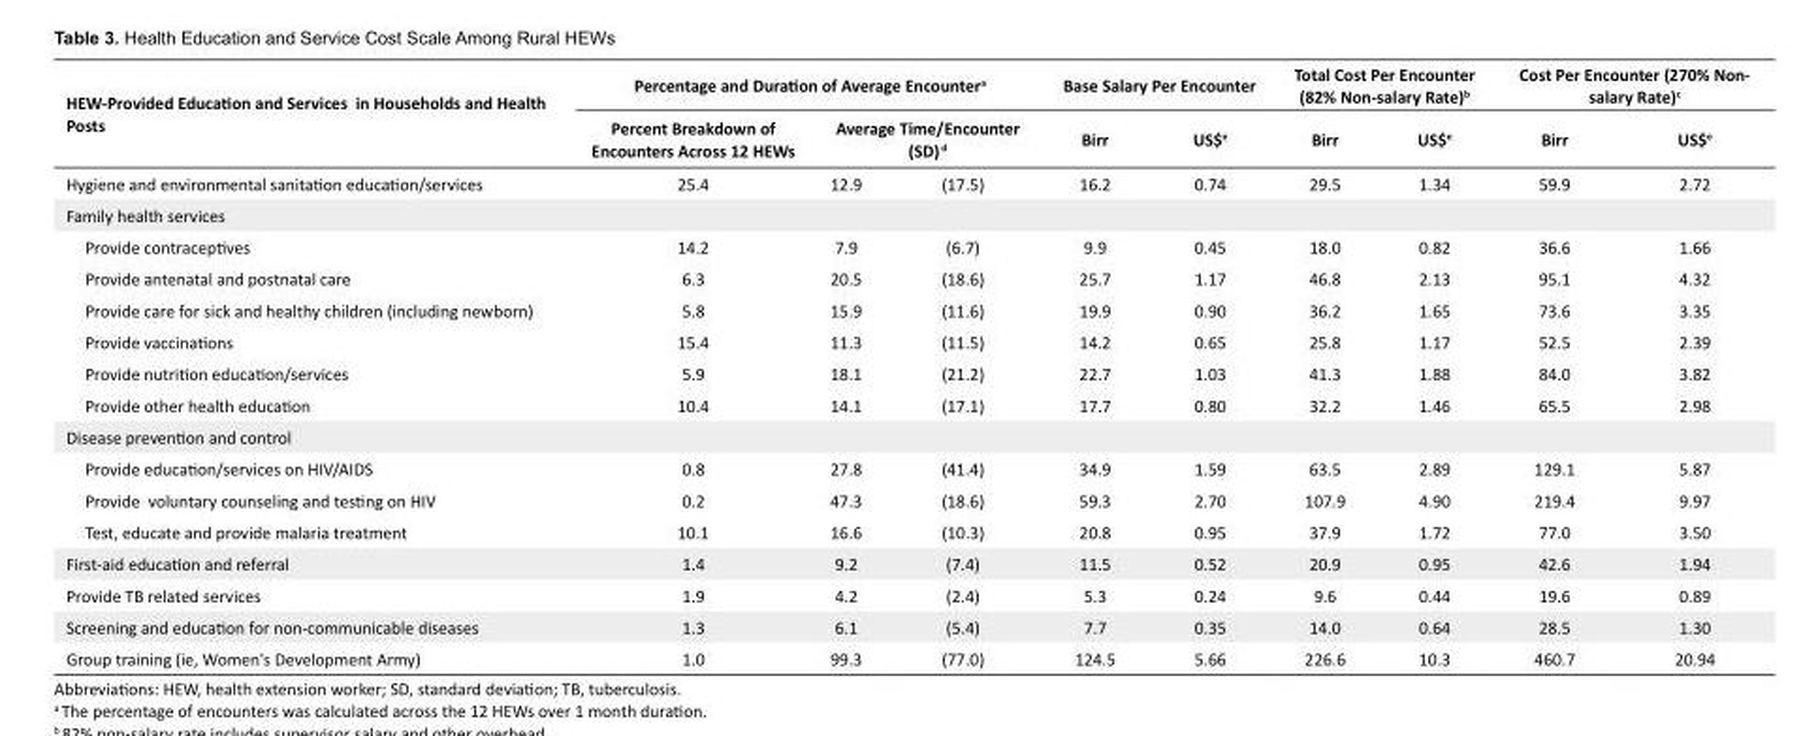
<table><tbody><tr><td rowspan="2">HEW-Provided Education and Services in Households and Health Posts</td><td colspan="3">Percentage and Duration of Average Encounter<sup>a</sup></td><td colspan="2">Base Salary Per Encounter</td><td colspan="2">Total Cost Per Encounter (82% Non-salary Rate)<sup>b</sup></td><td colspan="2">Cost Per Encounter (270% Non- salary Rate)<sup>c</sup></td></tr><tr><td>Percent Breakdown of Encounters Across 12 HEWs</td><td colspan="2">Average Time/Encounter (SD) <sup>d</sup></td><td>Birr</td><td>US$<sup>e</sup></td><td>Birr</td><td>US$<sup>e</sup></td><td>Birr</td><td>US$<sup>e</sup></td></tr><tr><td>Hygiene and environmental sanitation education/services</td><td>25.4</td><td>12.9</td><td>(17.5)</td><td>16.2</td><td>0.74</td><td>29.5</td><td>1.34</td><td>59.9</td><td>2.72</td></tr><tr><td colspan="10">Family health services</td></tr><tr><td>Provide contraceptives</td><td>14.2</td><td>7.9</td><td>(6.7)</td><td>9.9</td><td>0.45</td><td>18.0</td><td>0.82</td><td>36.6</td><td>1.66</td></tr><tr><td>Provide antenatal and postnatal care</td><td>6.3</td><td>20.5</td><td>(18.6)</td><td>25.7</td><td>1.17</td><td>46.8</td><td>2.13</td><td>95.1</td><td>4.32</td></tr><tr><td>Provide care for sick and healthy children (including newborn)</td><td>5.8</td><td>15.9</td><td>(11.6)</td><td>19.9</td><td>0.90</td><td>36.2</td><td>1.65</td><td>73.6</td><td>3.35</td></tr><tr><td>Provide vaccinations</td><td>15.4</td><td>11.3</td><td>(11.5)</td><td>14.2</td><td>0.65</td><td>25.8</td><td>1.17</td><td>52.5</td><td>2.39</td></tr><tr><td>Provide nutrition education/services</td><td>5.9</td><td>18.1</td><td>(21.2)</td><td>22.7</td><td>1.03</td><td>41.3</td><td>1.88</td><td>84.0</td><td>3.82</td></tr><tr><td>Provide other health education</td><td>10.4</td><td>14.1</td><td>(17.1)</td><td>17.7</td><td>0.80</td><td>32.2</td><td>1.46</td><td>65.5</td><td>2.98</td></tr><tr><td colspan="10">Disease prevention and control</td></tr><tr><td>Provide education/services on HIV/AIDS</td><td>0.8</td><td>27.8</td><td>(41.4)</td><td>34.9</td><td>1.59</td><td>63.5</td><td>2.89</td><td>129.1</td><td>5.87</td></tr><tr><td>Provide voluntary counseling and testing on HIV</td><td>0.2</td><td>47.3</td><td>(18.6)</td><td>59.3</td><td>2.70</td><td>107.9</td><td>4.90</td><td>219.4</td><td>9.97</td></tr><tr><td>Test, educate and provide malaria treatment</td><td>10.1</td><td>16.6</td><td>(10.3)</td><td>20.8</td><td>0.95</td><td>37.9</td><td>1.72</td><td>77.0</td><td>3.50</td></tr><tr><td>First-aid education and referral</td><td>1.4</td><td>9.2</td><td>(7.4)</td><td>11.5</td><td>0.52</td><td>20.9</td><td>0.95</td><td>42.6</td><td>1.94</td></tr><tr><td>Provide TB related services</td><td>1.9</td><td>4.2</td><td>(2.4)</td><td>5.3</td><td>0.24</td><td>9.6</td><td>0.44</td><td>19.6</td><td>0.89</td></tr><tr><td>Screening and education for non-communicable diseases</td><td>1.3</td><td>6.1</td><td>(5.4)</td><td>7.7</td><td>0.35</td><td>14.0</td><td>0.64</td><td>28.5</td><td>1.30</td></tr><tr><td>Group training (ie, Women&#x27;s Development Army)</td><td>1.0</td><td>99.3</td><td>(77.0)</td><td>124.5</td><td>5.66</td><td>226.6</td><td>10.3</td><td>460.7</td><td>20.94</td></tr></tbody></table>